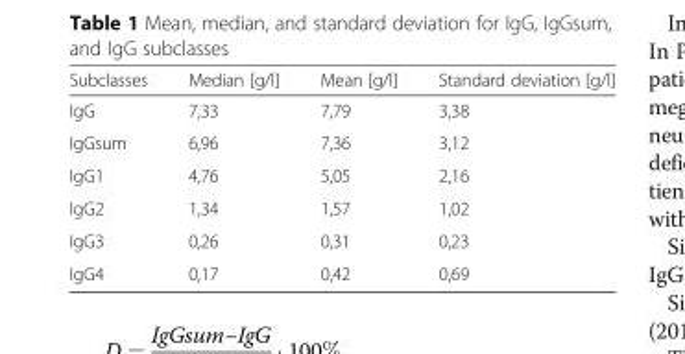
<table><thead><tr><td>Subclasses</td><td>Median [g/l]</td><td>Mean [g/l]</td><td>Standard deviation [g/l]</td></tr></thead><tbody><tr><td>IgG</td><td>7,33</td><td>7,79</td><td>3,38</td></tr><tr><td>IgGsum</td><td>6,96</td><td>7,36</td><td>3,12</td></tr><tr><td>IgG1</td><td>4,76</td><td>5,05</td><td>2,16</td></tr><tr><td>IgG2</td><td>1,34</td><td>1,57</td><td>1,02</td></tr><tr><td>IgG3</td><td>0,26</td><td>0,31</td><td>0,23</td></tr><tr><td>IgG4</td><td>0,17</td><td>0,42</td><td>0,69</td></tr></tbody></table>